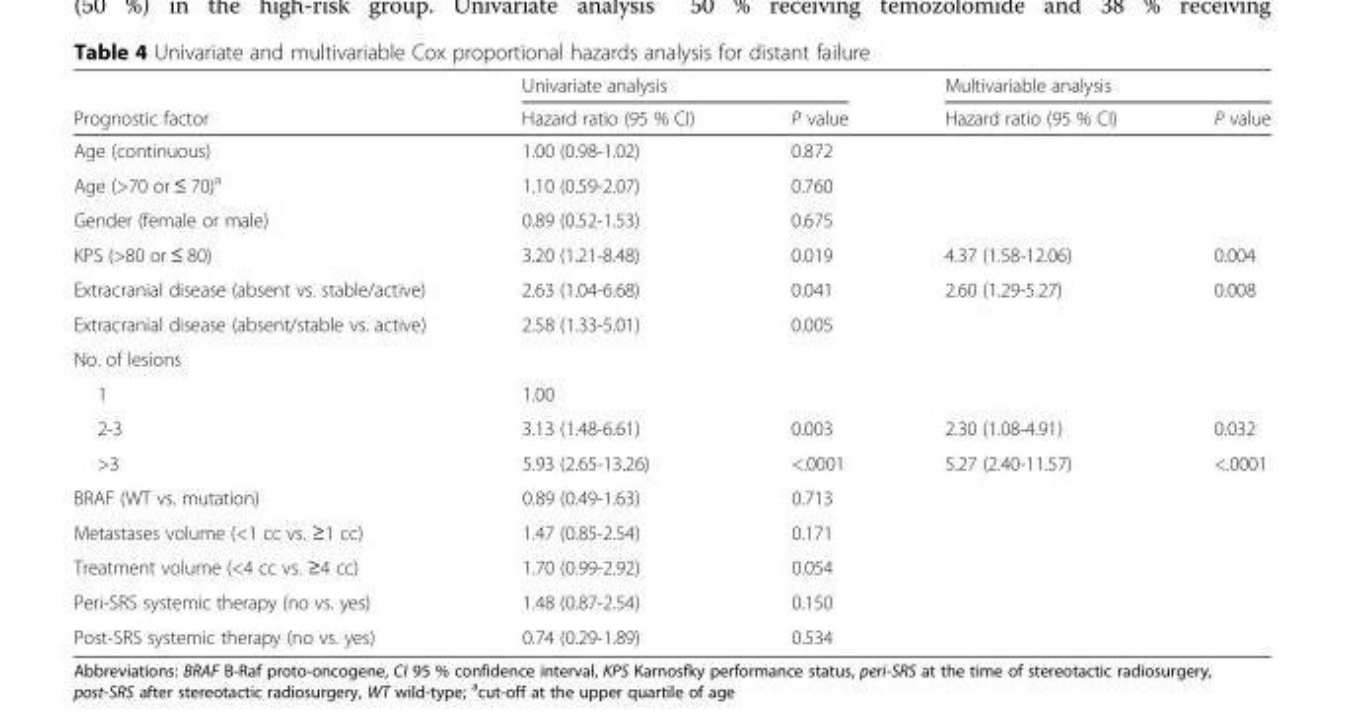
<table><thead><tr><td rowspan="2">Prognostic factor</td><td colspan="2">Univariate analysis</td><td colspan="2">Multivariable analysis</td></tr><tr><td>Hazard ratio (95 % CI)</td><td>P value</td><td>Hazard ratio (95 % CI)</td><td>P value</td></tr></thead><tbody><tr><td>Age (continuous)</td><td>1.00 (0.98-1.02)</td><td>0.872</td><td rowspan="3"></td><td rowspan="3"></td></tr><tr><td>Age (&gt;70 or ≤ 70)<sup>a</sup></td><td>1.10 (0.59-2.07)</td><td>0.760</td></tr><tr><td>Gender (female or male)</td><td>0.89 (0.52-1.53)</td><td>0.675</td></tr><tr><td>KPS (&gt;80 or ≤ 80)</td><td>3.20 (1.21-8.48)</td><td>0.019</td><td>4.37 (1.58-12.06)</td><td>0.004</td></tr><tr><td>Extracranial disease (absent vs. stable/active)</td><td>2.63 (1.04-6.68)</td><td>0.041</td><td>2.60 (1.29-5.27)</td><td>0.008</td></tr><tr><td>Extracranial disease (absent/stable vs. active)</td><td>2.58 (1.33-5.01)</td><td>0.005</td><td rowspan="3"></td><td rowspan="3"></td></tr><tr><td colspan="3">No. of lesions</td></tr><tr><td>1</td><td>1.00</td><td></td></tr><tr><td>2-3</td><td>3.13 (1.48-6.61)</td><td>0.003</td><td>2.30 (1.08-4.91)</td><td>0.032</td></tr><tr><td>&gt;3</td><td>5.93 (2.65-13.26)</td><td>&lt;.0001</td><td>5.27 (2.40-11.57)</td><td>&lt;.0001</td></tr><tr><td>BRAF (WT vs. mutation)</td><td>0.89 (0.49-1.63)</td><td>0.713</td><td rowspan="5"></td><td rowspan="5"></td></tr><tr><td>Metastases volume (&lt;1 cc vs. ≥1 cc)</td><td>1.47 (0.85-2.54)</td><td>0.171</td></tr><tr><td>Treatment volume (&lt;4 cc vs. ≥4 cc)</td><td>1.70 (0.99-2.92)</td><td>0.054</td></tr><tr><td>Peri-SRS systemic therapy (no vs. yes)</td><td>1.48 (0.87-2.54)</td><td>0.150</td></tr><tr><td>Post-SRS systemic therapy (no vs. yes)</td><td>0.74 (0.29-1.89)</td><td>0.534</td></tr></tbody></table>